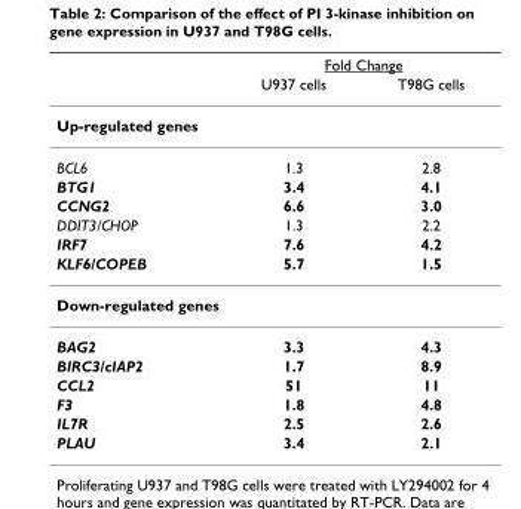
<table><thead><tr><td rowspan="2"></td><td colspan="2">Fold Change</td></tr><tr><td>U937 cells</td><td>T98G cells</td></tr></thead><tbody><tr><td colspan="3">Up-regulated genes</td></tr><tr><td>BCL6</td><td>1.3</td><td>2.8</td></tr><tr><td>BTG1</td><td>3.4</td><td>4.1</td></tr><tr><td>CCNG2</td><td>6.6</td><td>3.0</td></tr><tr><td>DDIT3/CHOP</td><td>1.3</td><td>2.2</td></tr><tr><td>IRF7</td><td>7.6</td><td>4.2</td></tr><tr><td>KLF6/COPEB</td><td>5.7</td><td>1.5</td></tr><tr><td colspan="3">Down-regulated genes</td></tr><tr><td>BAG2</td><td>3.3</td><td>4.3</td></tr><tr><td>BIRC3/cIAP2</td><td>1.7</td><td>8.9</td></tr><tr><td>CCL2</td><td>51</td><td>11</td></tr><tr><td>F3</td><td>1.8</td><td>4.8</td></tr><tr><td>IL7R</td><td>2.5</td><td>2.6</td></tr><tr><td>PLAU</td><td>3.4</td><td>2.1</td></tr></tbody></table>